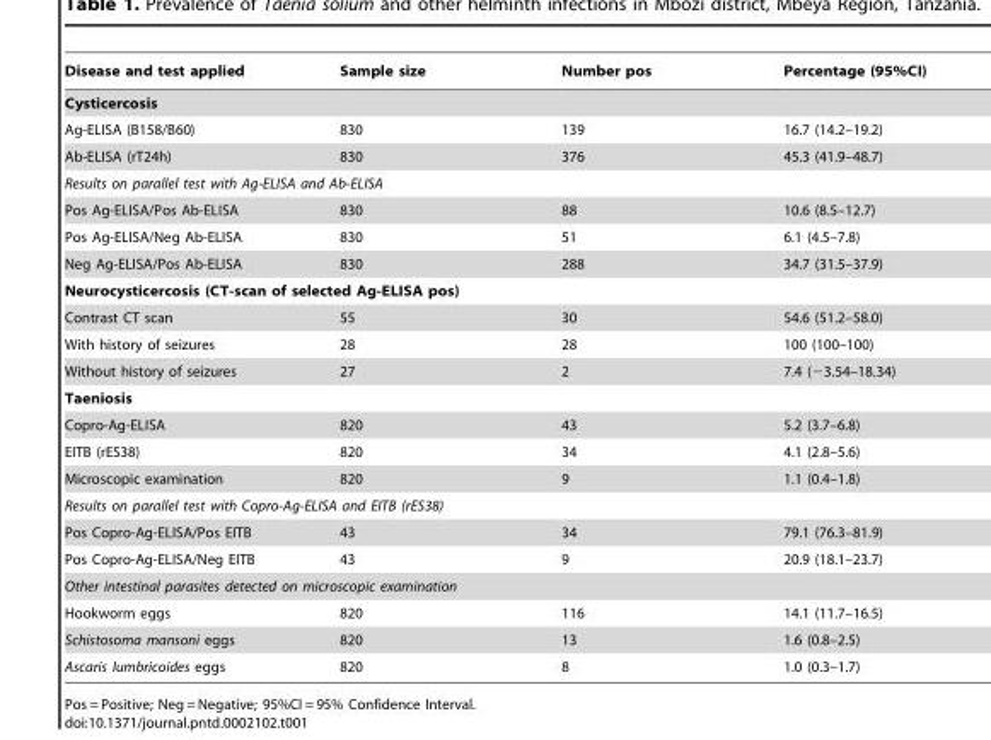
<table><thead><tr><td>Disease and test applied</td><td>Sample size</td><td>Number pos</td><td>Percentage (95%CI)</td></tr></thead><tbody><tr><td colspan="4">Cysticercosis</td></tr><tr><td>Ag-ELISA (B158/B60)</td><td>830</td><td>139</td><td>16.7 (14.2–19.2)</td></tr><tr><td>Ab-ELISA (rT24h)</td><td>830</td><td>376</td><td>45.3 (41.9–48.7)</td></tr><tr><td colspan="4">Results on parallel test with Ag-ELISA and Ab-ELISA</td></tr><tr><td>Pos Ag-ELISA/Pos Ab-ELISA</td><td>830</td><td>88</td><td>10.6 (8.5–12.7)</td></tr><tr><td>Pos Ag-ELISA/Neg Ab-ELISA</td><td>830</td><td>51</td><td>6.1 (4.5–7.8)</td></tr><tr><td>Neg Ag-ELISA/Pos Ab-ELISA</td><td>830</td><td>288</td><td>34.7 (31.5–37.9)</td></tr><tr><td colspan="4">Neurocysticercosis (CT-scan of selected Ag-ELISA pos)</td></tr><tr><td>Contrast CT scan</td><td>55</td><td>30</td><td>54.6 (51.2–58.0)</td></tr><tr><td>With history of seizures</td><td>28</td><td>28</td><td>100 (100–100)</td></tr><tr><td>Without history of seizures</td><td>27</td><td>2</td><td>7.4 (−3.54–18.34)</td></tr><tr><td colspan="4">Taeniosis</td></tr><tr><td>Copro-Ag-ELISA</td><td>820</td><td>43</td><td>5.2 (3.7–6.8)</td></tr><tr><td>EITB (rES38)</td><td>820</td><td>34</td><td>4.1 (2.8–5.6)</td></tr><tr><td>Microscopic examination</td><td>820</td><td>9</td><td>1.1 (0.4–1.8)</td></tr><tr><td colspan="4">Results on parallel test with Copro-Ag-ELISA and EITB (rES38)</td></tr><tr><td>Pos Copro-Ag-ELISA/Pos EITB</td><td>43</td><td>34</td><td>79.1 (76.3–81.9)</td></tr><tr><td>Pos Copro-Ag-ELISA/Neg EITB</td><td>43</td><td>9</td><td>20.9 (18.1–23.7)</td></tr><tr><td colspan="4">Other intestinal parasites detected on microscopic examination</td></tr><tr><td>Hookworm eggs</td><td>820</td><td>116</td><td>14.1 (11.7–16.5)</td></tr><tr><td>Schistosoma mansoni eggs</td><td>820</td><td>13</td><td>1.6 (0.8–2.5)</td></tr><tr><td>Ascaris lumbricoides eggs</td><td>820</td><td>8</td><td>1.0 (0.3–1.7)</td></tr></tbody></table>